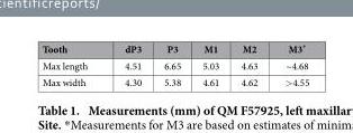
<table><thead><tr><td>Tooth</td><td>dP3</td><td>P3</td><td>M1</td><td>M2</td><td>M3*</td></tr></thead><tbody><tr><td>Max length</td><td>4.51</td><td>6.65</td><td>5.03</td><td>4.63</td><td>~4.68</td></tr><tr><td>Max width</td><td>4.30</td><td>5.38</td><td>4.61</td><td>4.62</td><td>&gt; 4.55</td></tr></tbody></table>